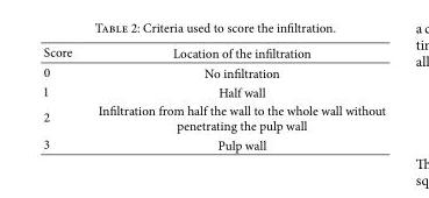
<table><thead><tr><td>Score</td><td>Location of the infiltration</td></tr></thead><tbody><tr><td>0</td><td>No infiltration</td></tr><tr><td>1</td><td>Half wall</td></tr><tr><td>2</td><td>Infiltration from half the wall to the whole wall without penetrating the pulp wall</td></tr><tr><td>3</td><td>Pulp wall</td></tr></tbody></table>